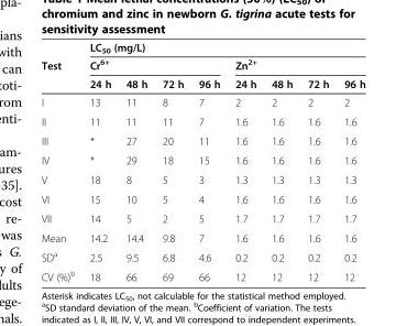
<table><thead><tr><td rowspan="3">Test</td><td colspan="8">LC<sub>50</sub> (mg/L)</td></tr><tr><td colspan="4">Cr<sup>6+</sup></td><td colspan="4">Zn<sup>2+</sup></td></tr><tr><td>24 h</td><td>48 h</td><td>72 h</td><td>96 h</td><td>24 h</td><td>48 h</td><td>72 h</td><td>96 h</td></tr></thead><tbody><tr><td>I</td><td>13</td><td>11</td><td>8</td><td>7</td><td>2</td><td>2</td><td>2</td><td>2</td></tr><tr><td>II</td><td>11</td><td>11</td><td>11</td><td>7</td><td>1.6</td><td>1.6</td><td>1.6</td><td>1.6</td></tr><tr><td>III</td><td>*</td><td>27</td><td>20</td><td>11</td><td>1.6</td><td>1.6</td><td>1.6</td><td>1.6</td></tr><tr><td>IV</td><td>*</td><td>29</td><td>18</td><td>15</td><td>1.6</td><td>1.6</td><td>1.6</td><td>1.6</td></tr><tr><td>V</td><td>18</td><td>8</td><td>5</td><td>3</td><td>1.3</td><td>1.3</td><td>1.3</td><td>1.3</td></tr><tr><td>VI</td><td>15</td><td>10</td><td>5</td><td>4</td><td>1.6</td><td>1.6</td><td>1.6</td><td>1.6</td></tr><tr><td>VII</td><td>14</td><td>5</td><td>2</td><td>5</td><td>1.7</td><td>1.7</td><td>1.7</td><td>1.7</td></tr><tr><td>Mean</td><td>14.2</td><td>14.4</td><td>9.8</td><td>7</td><td>1.6</td><td>1.6</td><td>1.6</td><td>1.6</td></tr><tr><td>SD<sup>a</sup></td><td>2.5</td><td>9.5</td><td>6.8</td><td>4.6</td><td>0.2</td><td>0.2</td><td>0.2</td><td>0.2</td></tr><tr><td>CV (%)<sup>b</sup></td><td>18</td><td>66</td><td>69</td><td>66</td><td>12</td><td>12</td><td>12</td><td>12</td></tr></tbody></table>